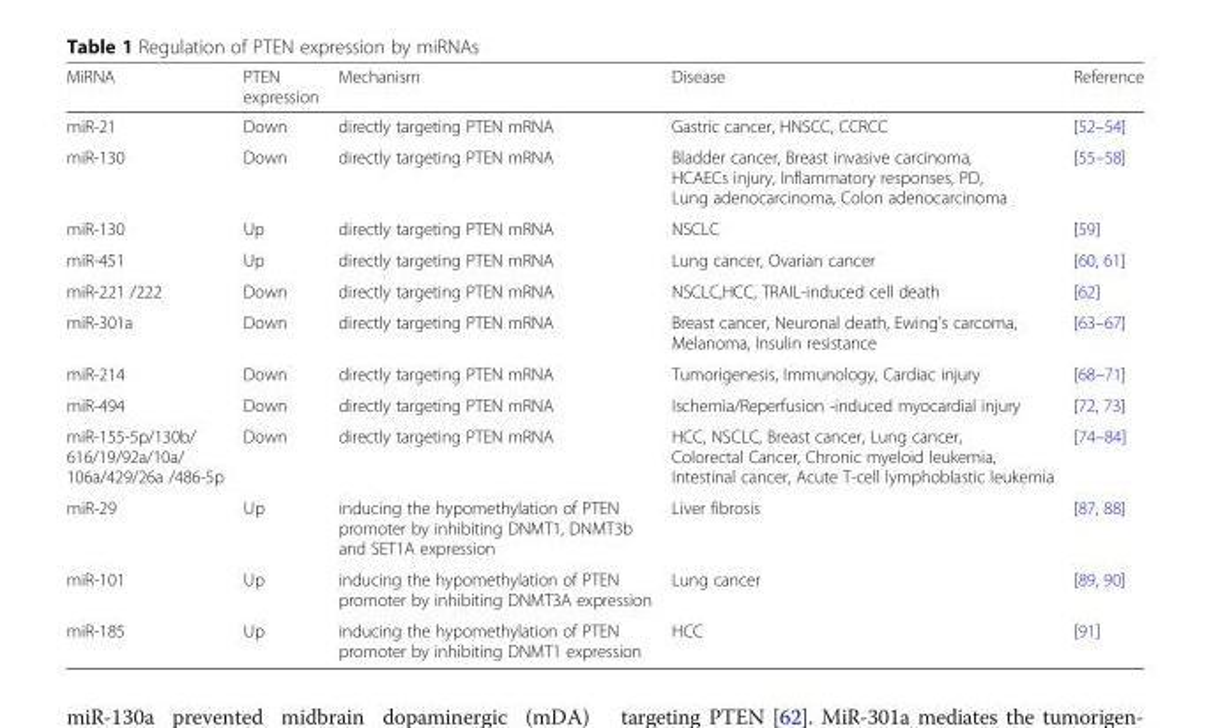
<table><thead><tr><td>MiRNA</td><td>PTEN expression</td><td>Mechanism</td><td>Disease</td><td>Reference</td></tr></thead><tbody><tr><td>miR-21</td><td>Down</td><td>directly targeting PTEN mRNA</td><td>Gastric cancer, HNSCC, CCRCC</td><td>[52–54]</td></tr><tr><td>miR-130</td><td>Down</td><td>directly targeting PTEN mRNA</td><td>Bladder cancer, Breast invasive carcinoma, HCAECs injury, Inflammatory responses, PD, Lung adenocarcinoma, Colon adenocarcinoma</td><td>[55–58]</td></tr><tr><td>miR-130</td><td>Up</td><td>directly targeting PTEN mRNA</td><td>NSCLC</td><td>[59]</td></tr><tr><td>miR-451</td><td>Up</td><td>directly targeting PTEN mRNA</td><td>Lung cancer, Ovarian cancer</td><td>[60, 61]</td></tr><tr><td>miR-221 /222</td><td>Down</td><td>directly targeting PTEN mRNA</td><td>NSCLC,HCC, TRAIL-induced cell death</td><td>[62]</td></tr><tr><td>miR-301a</td><td>Down</td><td>directly targeting PTEN mRNA</td><td>Breast cancer, Neuronal death, Ewing’s carcoma, Melanoma, Insulin resistance</td><td>[63–67]</td></tr><tr><td>miR-214</td><td>Down</td><td>directly targeting PTEN mRNA</td><td>Tumorigenesis, Immunology, Cardiac injury</td><td>[68–71]</td></tr><tr><td>miR-494</td><td>Down</td><td>directly targeting PTEN mRNA</td><td>Ischemia/Reperfusion -induced myocardial injury</td><td>[72, 73]</td></tr><tr><td>miR-155-5p/130b/ 616/19/92a/10a/ 106a/429/26a /486-5p</td><td>Down</td><td>directly targeting PTEN mRNA</td><td>HCC, NSCLC, Breast cancer, Lung cancer, Colorectal Cancer, Chronic myeloid leukemia, Intestinal cancer, Acute T-cell lymphoblastic leukemia</td><td>[74–84]</td></tr><tr><td>miR-29</td><td>Up</td><td>inducing the hypomethylation of PTEN promoter by inhibiting DNMT1, DNMT3b and SET1A expression</td><td>Liver fibrosis</td><td>[87, 88]</td></tr><tr><td>miR-101</td><td>Up</td><td>inducing the hypomethylation of PTEN promoter by inhibiting DNMT3A expression</td><td>Lung cancer</td><td>[89, 90]</td></tr><tr><td>miR-185</td><td>Up</td><td>inducing the hypomethylation of PTEN promoter by inhibiting DNMT1 expression</td><td>HCC</td><td>[91]</td></tr></tbody></table>